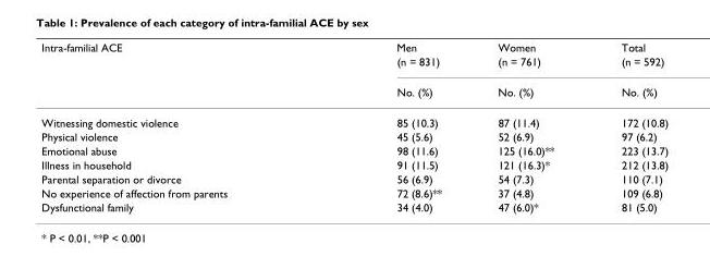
<table><thead><tr><td rowspan="3">Intra-familial ACE</td><td rowspan="3">Men (n = 831) No. (%)</td><td rowspan="3">Women (n = 761) No. (%)</td><td rowspan="3">Total (n = 592) No. (%)</td></tr><tr></tr><tr></tr></thead><tbody><tr><td>Witnessing domestic violence</td><td>85 (10.3)</td><td>87 (11.4)</td><td>172 (10.8)</td></tr><tr><td>Physical violence</td><td>45 (5.6)</td><td>52 (6.9)</td><td>97 (6.2)</td></tr><tr><td>Emotional abuse</td><td>98 (11.6)</td><td>125 (16.0)**</td><td>223 (13.7)</td></tr><tr><td>Illness in household</td><td>91 (11.5)</td><td>121 (16.3)*</td><td>212 (13.8)</td></tr><tr><td>Parental separation or divorce</td><td>56 (6.9)</td><td>54 (7.3)</td><td>110 (7.1)</td></tr><tr><td>No experience of affection from parents</td><td>72 (8.6)**</td><td>37 (4.8)</td><td>109 (6.8)</td></tr><tr><td>Dysfunctional family</td><td>34 (4.0)</td><td>47 (6.0)*</td><td>81 (5.0)</td></tr></tbody></table>